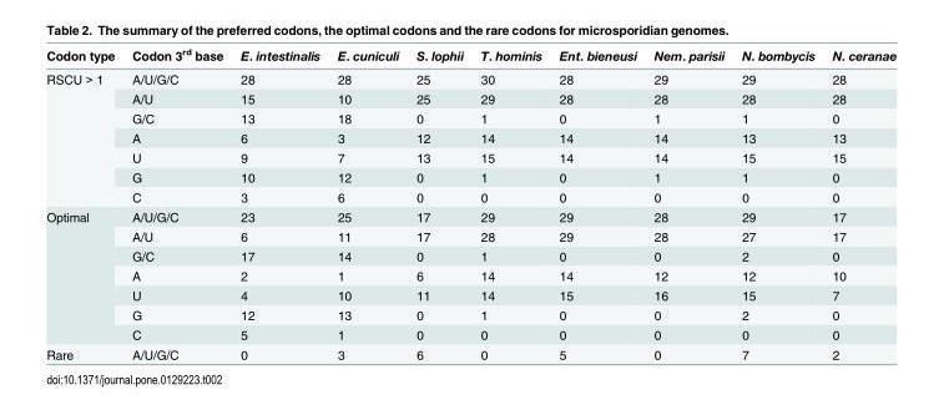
<table><thead><tr><td>Codon type</td><td>Codon 3<sup>rd</sup> base</td><td>E. intestinalis</td><td>E. cuniculi</td><td>S. lophii</td><td>T. hominis</td><td>Ent. bieneusi</td><td>Nem. parisii</td><td>N. bombycis</td><td>N. ceranae</td></tr></thead><tbody><tr><td rowspan="7">RSCU &gt; 1</td><td>A/U/G/C</td><td>28</td><td>28</td><td>25</td><td>30</td><td>28</td><td>29</td><td>29</td><td>28</td></tr><tr><td>A/U</td><td>15</td><td>10</td><td>25</td><td>29</td><td>28</td><td>28</td><td>28</td><td>28</td></tr><tr><td>G/C</td><td>13</td><td>18</td><td>0</td><td>1</td><td>0</td><td>1</td><td>1</td><td>0</td></tr><tr><td>A</td><td>6</td><td>3</td><td>12</td><td>14</td><td>14</td><td>14</td><td>13</td><td>13</td></tr><tr><td>U</td><td>9</td><td>7</td><td>13</td><td>15</td><td>14</td><td>14</td><td>15</td><td>15</td></tr><tr><td>G</td><td>10</td><td>12</td><td>0</td><td>1</td><td>0</td><td>1</td><td>1</td><td>0</td></tr><tr><td>C</td><td>3</td><td>6</td><td>0</td><td>0</td><td>0</td><td>0</td><td>0</td><td>0</td></tr><tr><td rowspan="7">Optimal</td><td>A/U/G/C</td><td>23</td><td>25</td><td>17</td><td>29</td><td>29</td><td>28</td><td>29</td><td>17</td></tr><tr><td>A/U</td><td>6</td><td>11</td><td>17</td><td>28</td><td>29</td><td>28</td><td>27</td><td>17</td></tr><tr><td>G/C</td><td>17</td><td>14</td><td>0</td><td>1</td><td>0</td><td>0</td><td>2</td><td>0</td></tr><tr><td>A</td><td>2</td><td>1</td><td>6</td><td>14</td><td>14</td><td>12</td><td>12</td><td>10</td></tr><tr><td>U</td><td>4</td><td>10</td><td>11</td><td>14</td><td>15</td><td>16</td><td>15</td><td>7</td></tr><tr><td>G</td><td>12</td><td>13</td><td>0</td><td>1</td><td>0</td><td>0</td><td>2</td><td>0</td></tr><tr><td>C</td><td>5</td><td>1</td><td>0</td><td>0</td><td>0</td><td>0</td><td>0</td><td>0</td></tr><tr><td>Rare</td><td>A/U/G/C</td><td>0</td><td>3</td><td>6</td><td>0</td><td>5</td><td>0</td><td>7</td><td>2</td></tr></tbody></table>